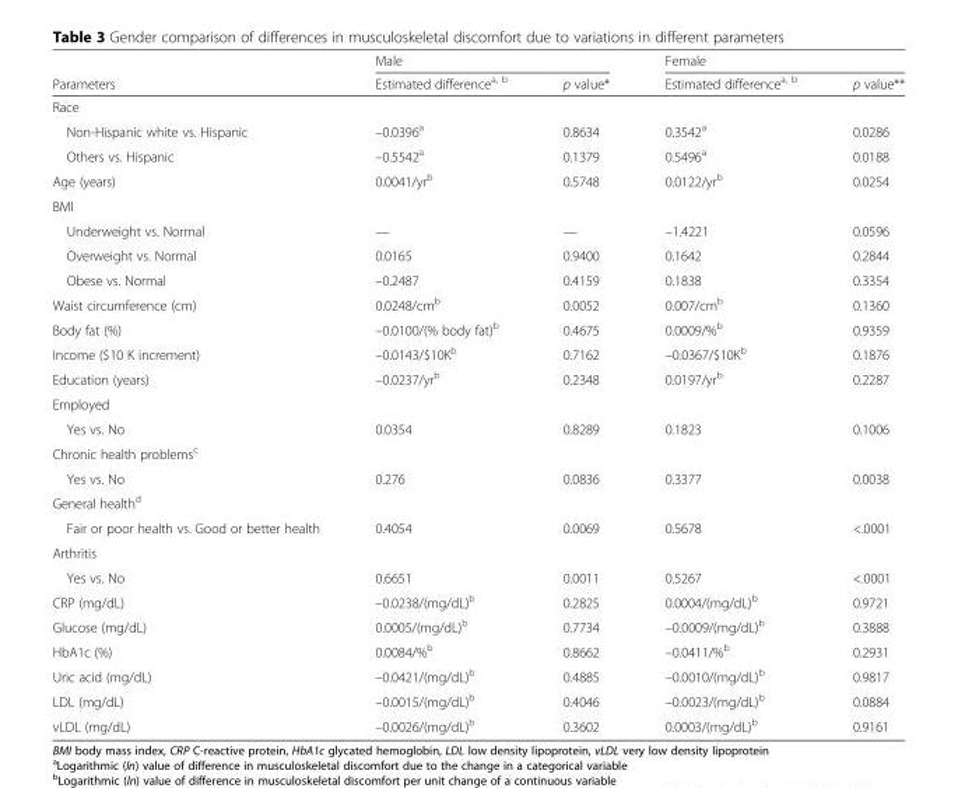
<table><thead><tr><td rowspan="2">Parameters</td><td colspan="2">Male</td><td colspan="2">Female</td></tr><tr><td>Estimated difference<sup>a, b</sup></td><td>p value*</td><td>Estimated difference<sup>a, b</sup></td><td>p value**</td></tr></thead><tbody><tr><td colspan="5">Race</td></tr><tr><td>Non-Hispanic white vs. Hispanic</td><td>–0.0396<sup>a</sup></td><td>0.8634</td><td>0.3542<sup>a</sup></td><td>0.0286</td></tr><tr><td>Others vs. Hispanic</td><td>–0.5542<sup>a</sup></td><td>0.1379</td><td>0.5496<sup>a</sup></td><td>0.0188</td></tr><tr><td>Age (years)</td><td>0.0041/yr<sup>b</sup></td><td>0.5748</td><td>0.0122/yr<sup>b</sup></td><td>0.0254</td></tr><tr><td colspan="5">BMI</td></tr><tr><td>Underweight vs. Normal</td><td>—</td><td>—</td><td>–1.4221</td><td>0.0596</td></tr><tr><td>Overweight vs. Normal</td><td>0.0165</td><td>0.9400</td><td>0.1642</td><td>0.2844</td></tr><tr><td>Obese vs. Normal</td><td>–0.2487</td><td>0.4159</td><td>0.1838</td><td>0.3354</td></tr><tr><td>Waist circumference (cm)</td><td>0.0248/cm<sup>b</sup></td><td>0.0052</td><td>0.007/cm<sup>b</sup></td><td>0.1360</td></tr><tr><td>Body fat (%)</td><td>–0.0100/(% body fat)<sup>b</sup></td><td>0.4675</td><td>0.0009/%<sup>b</sup></td><td>0.9359</td></tr><tr><td>Income ($10 K increment)</td><td>–0.0143/$10K<sup>b</sup></td><td>0.7162</td><td>–0.0367/$10K<sup>b</sup></td><td>0.1876</td></tr><tr><td>Education (years)</td><td>–0.0237/yr<sup>b</sup></td><td>0.2348</td><td>0.0197/yr<sup>b</sup></td><td>0.2287</td></tr><tr><td colspan="5">Employed</td></tr><tr><td>Yes vs. No</td><td>0.0354</td><td>0.8289</td><td>0.1823</td><td>0.1006</td></tr><tr><td colspan="5">Chronic health problems<sup>c</sup></td></tr><tr><td>Yes vs. No</td><td>0.276</td><td>0.0836</td><td>0.3377</td><td>0.0038</td></tr><tr><td colspan="5">General health<sup>d</sup></td></tr><tr><td>Fair or poor health vs. Good or better health</td><td>0.4054</td><td>0.0069</td><td>0.5678</td><td>&lt;.0001</td></tr><tr><td colspan="5">Arthritis</td></tr><tr><td>Yes vs. No</td><td>0.6651</td><td>0.0011</td><td>0.5267</td><td>&lt;.0001</td></tr><tr><td>CRP (mg/dL)</td><td>–0.0238/(mg/dL)<sup>b</sup></td><td>0.2825</td><td>0.0004/(mg/dL)<sup>b</sup></td><td>0.9721</td></tr><tr><td>Glucose (mg/dL)</td><td>0.0005/(mg/dL)<sup>b</sup></td><td>0.7734</td><td>–0.0009/(mg/dL)<sup>b</sup></td><td>0.3888</td></tr><tr><td>HbA1c (%)</td><td>0.0084/%<sup>b</sup></td><td>0.8662</td><td>–0.0411/%<sup>b</sup></td><td>0.2931</td></tr><tr><td>Uric acid (mg/dL)</td><td>–0.0421/(mg/dL)<sup>b</sup></td><td>0.4885</td><td>–0.0010/(mg/dL)<sup>b</sup></td><td>0.9817</td></tr><tr><td>LDL (mg/dL)</td><td>–0.0015/(mg/dL)<sup>b</sup></td><td>0.4046</td><td>–0.0023/(mg/dL)<sup>b</sup></td><td>0.0884</td></tr><tr><td>vLDL (mg/dL)</td><td>–0.0026/(mg/dL)<sup>b</sup></td><td>0.3602</td><td>0.0003/(mg/dL)<sup>b</sup></td><td>0.9161</td></tr></tbody></table>